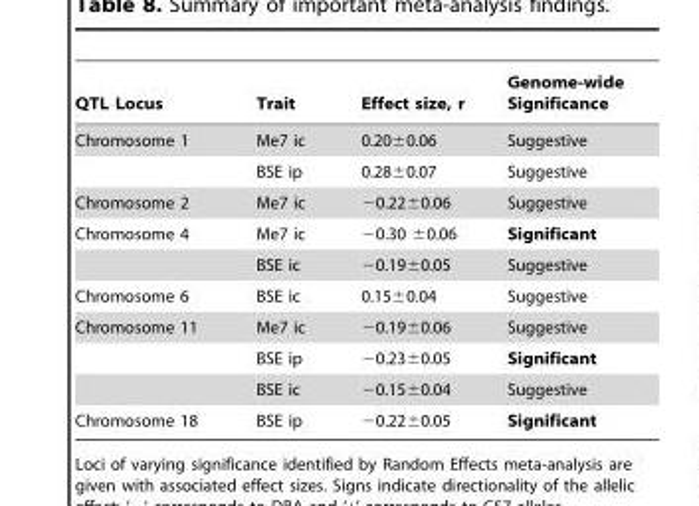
<table><thead><tr><td>QTL Locus</td><td>Trait</td><td>Effect size, r</td><td>Genome-wide Significance</td></tr></thead><tbody><tr><td rowspan="2">Chromosome 1</td><td>Me7 ic</td><td>0.20±0.06</td><td>Suggestive</td></tr><tr><td>BSE ip</td><td>0.28±0.07</td><td>Suggestive</td></tr><tr><td>Chromosome 2</td><td>Me7 ic</td><td>−0.22±0.06</td><td>Suggestive</td></tr><tr><td rowspan="2">Chromosome 4</td><td>Me7 ic</td><td>−0.30 ±0.06</td><td>Significant</td></tr><tr><td>BSE ic</td><td>−0.19±0.05</td><td>Suggestive</td></tr><tr><td>Chromosome 6</td><td>BSE ic</td><td>0.15±0.04</td><td>Suggestive</td></tr><tr><td rowspan="3">Chromosome 11</td><td>Me7 ic</td><td>−0.19±0.06</td><td>Suggestive</td></tr><tr><td>BSE ip</td><td>−0.23±0.05</td><td>Significant</td></tr><tr><td>BSE ic</td><td>−0.15±0.04</td><td>Suggestive</td></tr><tr><td>Chromosome 18</td><td>BSE ip</td><td>−0.22±0.05</td><td>Significant</td></tr></tbody></table>